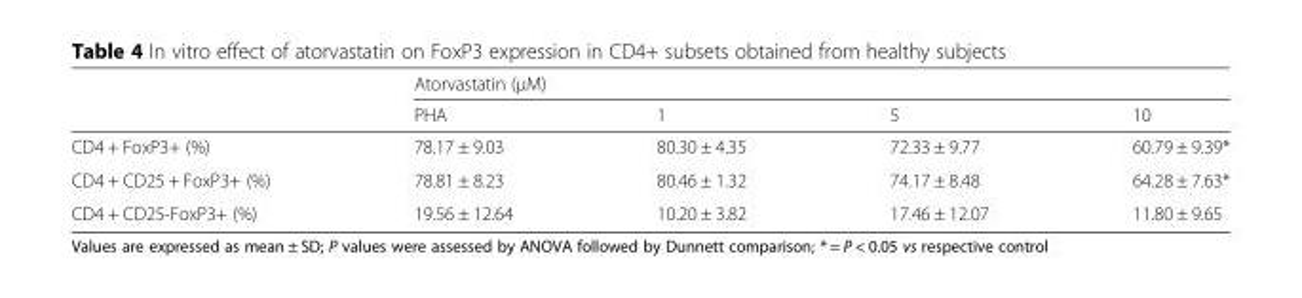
<table><thead><tr><td rowspan="2"></td><td colspan="4">Atorvastatin (μM)</td></tr><tr><td>PHA</td><td>1</td><td>5</td><td>10</td></tr></thead><tbody><tr><td>CD4 + FoxP3+ (%)</td><td>78.17 ± 9.03</td><td>80.30 ± 4.35</td><td>72.33 ± 9.77</td><td>60.79 ± 9.39*</td></tr><tr><td>CD4 + CD25 + FoxP3+ (%)</td><td>78.81 ± 8.23</td><td>80.46 ± 1.32</td><td>74.17 ± 8.48</td><td>64.28 ± 7.63*</td></tr><tr><td>CD4 + CD25-FoxP3+ (%)</td><td>19.56 ± 12.64</td><td>10.20 ± 3.82</td><td>17.46 ± 12.07</td><td>11.80 ± 9.65</td></tr></tbody></table>